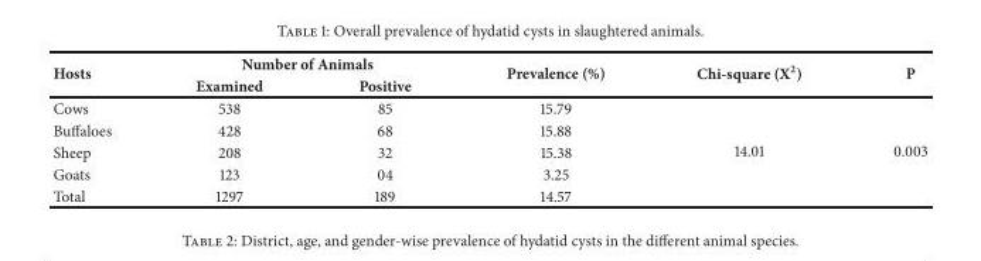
<table><thead><tr><td rowspan="2">Hosts</td><td colspan="2">Number of Animals</td><td rowspan="2">Prevalence (%)</td><td rowspan="2">Chi-square (X<sup>2</sup>)</td><td rowspan="2">P</td></tr><tr><td>Examined</td><td>Positive</td></tr></thead><tbody><tr><td>Cows</td><td>538</td><td>85</td><td>15.79</td><td rowspan="5">14.01</td><td rowspan="5">0.003</td></tr><tr><td>Buffaloes</td><td>428</td><td>68</td><td>15.88</td></tr><tr><td>Sheep</td><td>208</td><td>32</td><td>15.38</td></tr><tr><td>Goats</td><td>123</td><td>04</td><td>3.25</td></tr><tr><td>Total</td><td>1297</td><td>189</td><td>14.57</td></tr></tbody></table>